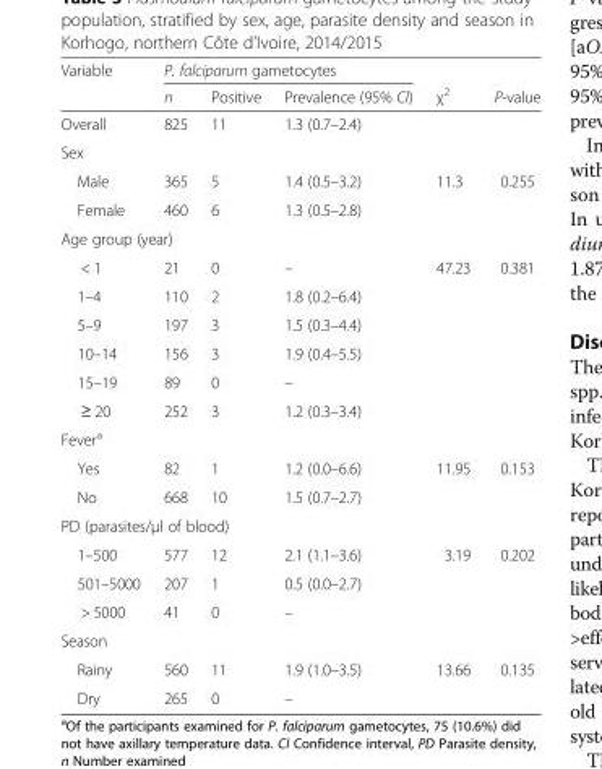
<table><thead><tr><td rowspan="2">Variable</td><td colspan="3">P. falciparum gametocytes</td><td rowspan="2">χ<sup>2</sup></td><td rowspan="2">P-value</td></tr><tr><td>n</td><td>Positive</td><td>Prevalence (95% CI)</td></tr></thead><tbody><tr><td>Overall</td><td>825</td><td>11</td><td>1.3 (0.7–2.4)</td><td></td><td></td></tr><tr><td colspan="6">Sex</td></tr><tr><td>Male</td><td>365</td><td>5</td><td>1.4 (0.5–3.2)</td><td>11.3</td><td>0.255</td></tr><tr><td>Female</td><td>460</td><td>6</td><td>1.3 (0.5–2.8)</td><td></td><td></td></tr><tr><td colspan="6">Age group (year)</td></tr><tr><td>&lt; 1</td><td>21</td><td>0</td><td>–</td><td>47.23</td><td>0.381</td></tr><tr><td>1–4</td><td>110</td><td>2</td><td>1.8 (0.2–6.4)</td><td></td><td></td></tr><tr><td>5–9</td><td>197</td><td>3</td><td>1.5 (0.3–4.4)</td><td></td><td></td></tr><tr><td>10–14</td><td>156</td><td>3</td><td>1.9 (0.4–5.5)</td><td></td><td></td></tr><tr><td>15–19</td><td>89</td><td>0</td><td>–</td><td></td><td></td></tr><tr><td>≥ 20</td><td>252</td><td>3</td><td>1.2 (0.3–3.4)</td><td></td><td></td></tr><tr><td colspan="6">Fever<sup>a</sup></td></tr><tr><td>Yes</td><td>82</td><td>1</td><td>1.2 (0.0–6.6)</td><td>11.95</td><td>0.153</td></tr><tr><td>No</td><td>668</td><td>10</td><td>1.5 (0.7–2.7)</td><td></td><td></td></tr><tr><td colspan="6">PD (parasites/μl of blood)</td></tr><tr><td>1–500</td><td>577</td><td>12</td><td>2.1 (1.1–3.6)</td><td>3.19</td><td>0.202</td></tr><tr><td>501–5000</td><td>207</td><td>1</td><td>0.5 (0.0–2.7)</td><td></td><td></td></tr><tr><td>&gt; 5000</td><td>41</td><td>0</td><td>–</td><td></td><td></td></tr><tr><td colspan="6">Season</td></tr><tr><td>Rainy</td><td>560</td><td>11</td><td>1.9 (1.0–3.5)</td><td>13.66</td><td>0.135</td></tr><tr><td>Dry</td><td>265</td><td>0</td><td>–</td><td></td><td></td></tr></tbody></table>